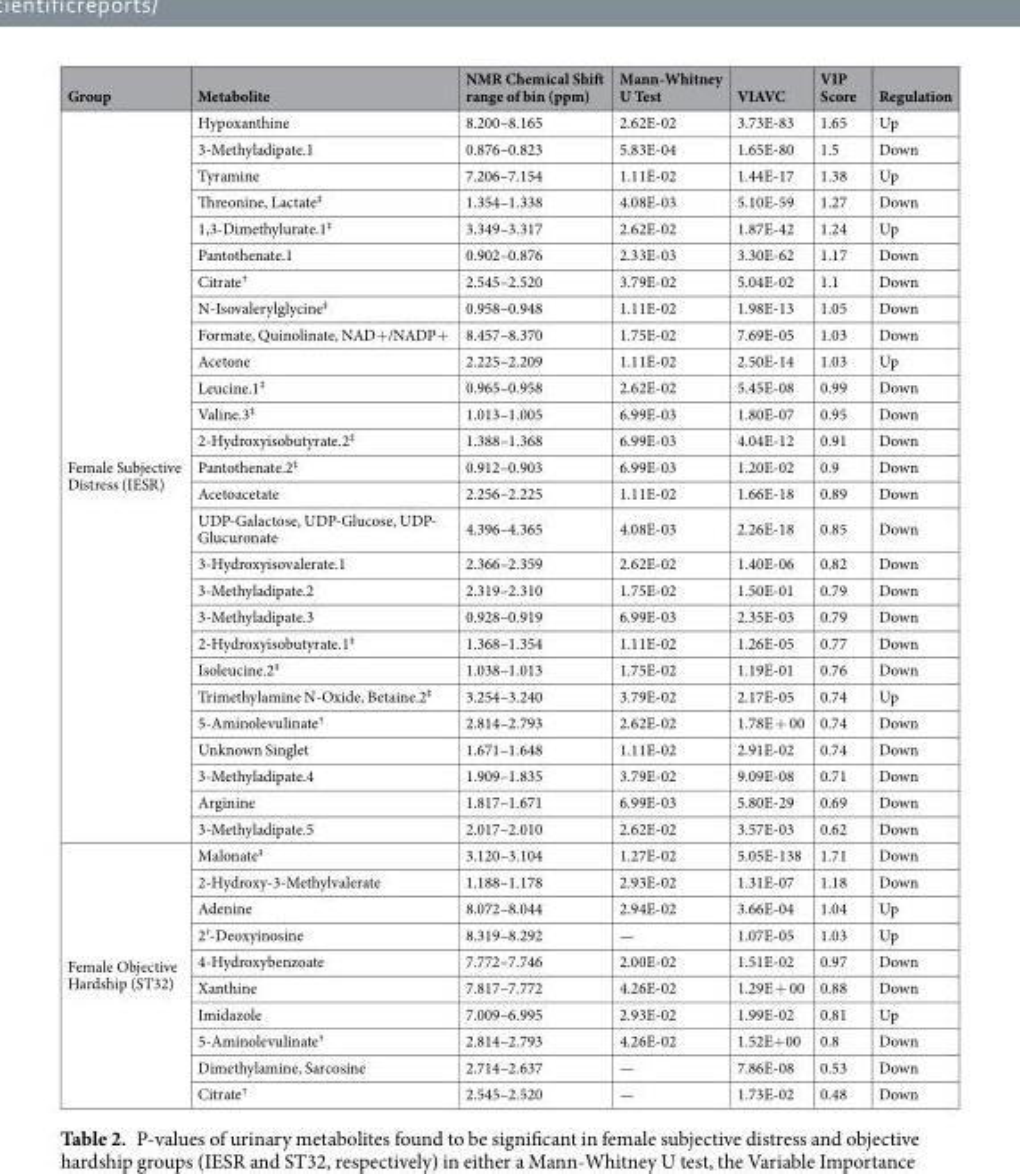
<table><thead><tr><td>Group</td><td>Metabolite</td><td>NMR Chemical Shift range of bin (ppm)</td><td>Mann-Whitney U Test</td><td>VIAVC</td><td>VIP Score</td><td>Regulation</td></tr></thead><tbody><tr><td rowspan="27">Female Subjective Distress (IESR)</td><td>Hypoxanthine</td><td>8.200–8.165</td><td>2.62E-02</td><td>3.73E-83</td><td>1.65</td><td>Up</td></tr><tr><td>3-Methyladipate.1</td><td>0.876–0.823</td><td>5.83E-04</td><td>1.65E-80</td><td>1.5</td><td>Down</td></tr><tr><td>Tyramine</td><td>7.206–7.154</td><td>1.11E-02</td><td>1.44E-17</td><td>1.38</td><td>Up</td></tr><tr><td>Threonine, Lactate<sup>‡</sup></td><td>1.354–1.338</td><td>4.08E-03</td><td>5.10E-59</td><td>1.27</td><td>Down</td></tr><tr><td>1,3-Dimethylurate.1<sup>‡</sup></td><td>3.349–3.317</td><td>2.62E-02</td><td>1.87E-42</td><td>1.24</td><td>Up</td></tr><tr><td>Pantothenate.1</td><td>0.902–0.876</td><td>2.33E-03</td><td>3.30E-62</td><td>1.17</td><td>Down</td></tr><tr><td>Citrate<sup>†</sup></td><td>2.545–2.520</td><td>3.79E-02</td><td>5.04E-02</td><td>1.1</td><td>Down</td></tr><tr><td>N-Isovalerylglycine<sup>‡</sup></td><td>0.958–0.948</td><td>1.11E-02</td><td>1.98E-13</td><td>1.05</td><td>Down</td></tr><tr><td>Formate, Quinolinate, NAD+/NADP+</td><td>8.457–8.370</td><td>1.75E-02</td><td>7.69E-05</td><td>1.03</td><td>Down</td></tr><tr><td>Acetone</td><td>2.225–2.209</td><td>1.11E-02</td><td>2.50E-14</td><td>1.03</td><td>Up</td></tr><tr><td>Leucine.1<sup>‡</sup></td><td>0.965–0.958</td><td>2.62E-02</td><td>5.45E-08</td><td>0.99</td><td>Down</td></tr><tr><td>Valine.3<sup>‡</sup></td><td>1.013–1.005</td><td>6.99E-03</td><td>1.80E-07</td><td>0.95</td><td>Down</td></tr><tr><td>2-Hydroxyisobutyrate.2<sup>‡</sup></td><td>1.388–1.368</td><td>6.99E-03</td><td>4.04E-12</td><td>0.91</td><td>Down</td></tr><tr><td>Pantothenate.2<sup>‡</sup></td><td>0.912–0.903</td><td>6.99E-03</td><td>1.20E-02</td><td>0.9</td><td>Down</td></tr><tr><td>Acetoacetate</td><td>2.256–2.225</td><td>1.11E-02</td><td>1.66E-18</td><td>0.89</td><td>Down</td></tr><tr><td>UDP-Galactose, UDP-Glucose, UDP- Glucuronate</td><td>4.396–4.365</td><td>4.08E-03</td><td>2.26E-18</td><td>0.85</td><td>Down</td></tr><tr><td>3-Hydroxyisovalerate.1</td><td>2.366–2.359</td><td>2.62E-02</td><td>1.40E-06</td><td>0.82</td><td>Down</td></tr><tr><td>3-Methyladipate.2</td><td>2.319–2.310</td><td>1.75E-02</td><td>1.50E-01</td><td>0.79</td><td>Down</td></tr><tr><td>3-Methyladipate.3</td><td>0.928–0.919</td><td>6.99E-03</td><td>2.35E-03</td><td>0.79</td><td>Down</td></tr><tr><td>2-Hydroxyisobutyrate.1<sup>‡</sup></td><td>1.368–1.354</td><td>1.11E-02</td><td>1.26E-05</td><td>0.77</td><td>Down</td></tr><tr><td>Isoleucine.2<sup>‡</sup></td><td>1.038–1.013</td><td>1.75E-02</td><td>1.19E-01</td><td>0.76</td><td>Down</td></tr><tr><td>Trimethylamine N-Oxide, Betaine.2<sup>‡</sup></td><td>3.254–3.240</td><td>3.79E-02</td><td>2.17E-05</td><td>0.74</td><td>Up</td></tr><tr><td>5-Aminolevulinate<sup>†</sup></td><td>2.814–2.793</td><td>2.62E-02</td><td>1.78E + 00</td><td>0.74</td><td>Down</td></tr><tr><td>Unknown Singlet</td><td>1.671–1.648</td><td>1.11E-02</td><td>2.91E-02</td><td>0.74</td><td>Down</td></tr><tr><td>3-Methyladipate.4</td><td>1.909–1.835</td><td>3.79E-02</td><td>9.09E-08</td><td>0.71</td><td>Down</td></tr><tr><td>Arginine</td><td>1.817–1.671</td><td>6.99E-03</td><td>5.80E-29</td><td>0.69</td><td>Down</td></tr><tr><td>3-Methyladipate.5</td><td>2.017–2.010</td><td>2.62E-02</td><td>3.57E-03</td><td>0.62</td><td>Down</td></tr><tr><td rowspan="10">Female Objective Hardship (ST32)</td><td>Malonate<sup>‡</sup></td><td>3.120–3.104</td><td>1.27E-02</td><td>5.05E-138</td><td>1.71</td><td>Down</td></tr><tr><td>2-Hydroxy-3-Methylvalerate</td><td>1.188–1.178</td><td>2.93E-02</td><td>1.31E-07</td><td>1.18</td><td>Down</td></tr><tr><td>Adenine</td><td>8.072–8.044</td><td>2.94E-02</td><td>3.66E-04</td><td>1.04</td><td>Up</td></tr><tr><td>2′-Deoxyinosine</td><td>8.319–8.292</td><td>—</td><td>1.07E-05</td><td>1.03</td><td>Up</td></tr><tr><td>4-Hydroxybenzoate</td><td>7.772–7.746</td><td>2.00E-02</td><td>1.51E-02</td><td>0.97</td><td>Down</td></tr><tr><td>Xanthine</td><td>7.817–7.772</td><td>4.26E-02</td><td>1.29E + 00</td><td>0.88</td><td>Down</td></tr><tr><td>Imidazole</td><td>7.009–6.995</td><td>2.93E-02</td><td>1.99E-02</td><td>0.81</td><td>Up</td></tr><tr><td>5-Aminolevulinate<sup>†</sup></td><td>2.814–2.793</td><td>4.26E-02</td><td>1.52E+00</td><td>0.8</td><td>Down</td></tr><tr><td>Dimethylamine, Sarcosine</td><td>2.714–2.637</td><td>—</td><td>7.86E-08</td><td>0.53</td><td>Down</td></tr><tr><td>Citrate<sup>†</sup></td><td>2.545–2.520</td><td>—</td><td>1.73E-02</td><td>0.48</td><td>Down</td></tr></tbody></table>